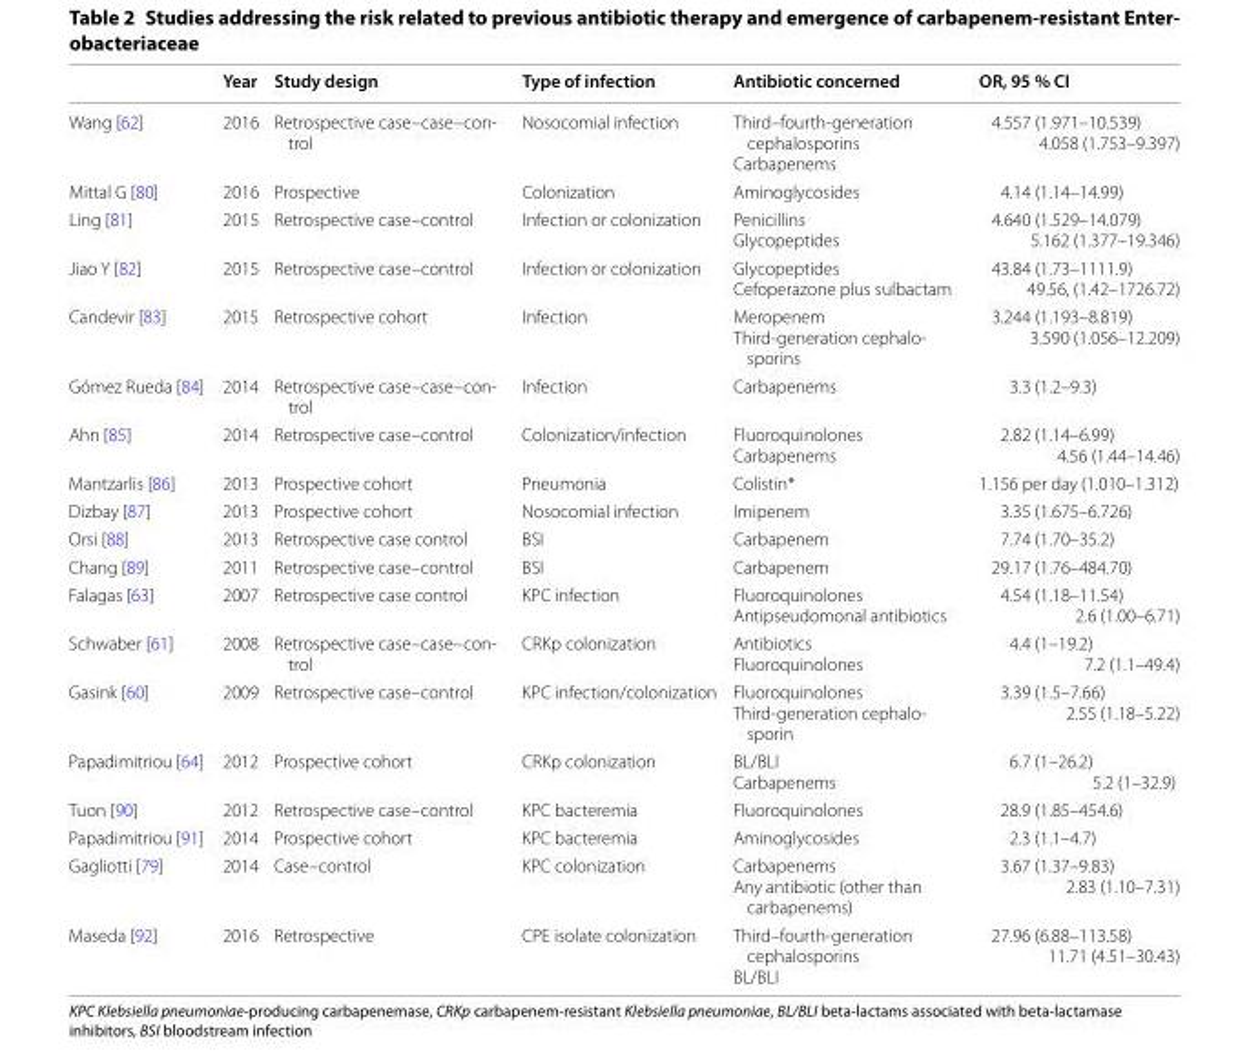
<table><thead><tr><td></td><td>Year</td><td>Study design</td><td>Type of infection</td><td>Antibiotic concerned</td><td>OR, 95 % CI</td></tr></thead><tbody><tr><td>Wang [62]</td><td>2016</td><td>Retrospective case–case–con‑ trol</td><td>Nosocomial infection</td><td>Third–fourth‑generation cephalosporins Carbapenems</td><td>4.557 (1.971–10.539) 4.058 (1.753–9.397)</td></tr><tr><td>Mittal G [80]</td><td>2016</td><td>Prospective</td><td>Colonization</td><td>Aminoglycosides</td><td>4.14 (1.14–14.99)</td></tr><tr><td>Ling [81]</td><td>2015</td><td>Retrospective case–control</td><td>Infection or colonization</td><td>Penicillins Glycopeptides</td><td>4.640 (1.529–14.079) 5.162 (1.377–19.346)</td></tr><tr><td>Jiao Y [82]</td><td>2015</td><td>Retrospective case–control</td><td>Infection or colonization</td><td>Glycopeptides Cefoperazone plus sulbactam</td><td>43.84 (1.73–1111.9) 49.56, (1.42–1726.72)</td></tr><tr><td>Candevir [83]</td><td>2015</td><td>Retrospective cohort</td><td>Infection</td><td>Meropenem Third‑generation cephalo‑ sporins</td><td>3.244 (1.193–8.819) 3.590 (1.056–12.209)</td></tr><tr><td>Gómez Rueda [84]</td><td>2014</td><td>Retrospective case–case–con‑ trol</td><td>Infection</td><td>Carbapenems</td><td>3.3 (1.2–9.3)</td></tr><tr><td>Ahn [85]</td><td>2014</td><td>Retrospective case–control</td><td>Colonization/infection</td><td>Fluoroquinolones Carbapenems</td><td>2.82 (1.14–6.99) 4.56 (1.44–14.46)</td></tr><tr><td>Mantzarlis [86]</td><td>2013</td><td>Prospective cohort</td><td>Pneumonia</td><td>Colistin*</td><td>1.156 per day (1.010–1.312)</td></tr><tr><td>Dizbay [87]</td><td>2013</td><td>Prospective cohort</td><td>Nosocomial infection</td><td>Imipenem</td><td>3.35 (1.675–6.726)</td></tr><tr><td>Orsi [88]</td><td>2013</td><td>Retrospective case control</td><td>BSI</td><td>Carbapenem</td><td>7.74 (1.70–35.2)</td></tr><tr><td>Chang [89]</td><td>2011</td><td>Retrospective case–control</td><td>BSI</td><td>Carbapenem</td><td>29.17 (1.76–484.70)</td></tr><tr><td>Falagas [63]</td><td>2007</td><td>Retrospective case control</td><td>KPC infection</td><td>Fluoroquinolones Antipseudomonal antibiotics</td><td>4.54 (1.18–11.54) 2.6 (1.00–6.71)</td></tr><tr><td>Schwaber [61]</td><td>2008</td><td>Retrospective case–case–con‑ trol</td><td>CRKp colonization</td><td>Antibiotics Fluoroquinolones</td><td>4.4 (1–19.2) 7.2 (1.1–49.4)</td></tr><tr><td>Gasink [60]</td><td>2009</td><td>Retrospective case–control</td><td>KPC infection/colonization</td><td>Fluoroquinolones Third‑generation cephalo‑ sporin</td><td>3.39 (1.5–7.66) 2.55 (1.18–5.22)</td></tr><tr><td>Papadimitriou [64]</td><td>2012</td><td>Prospective cohort</td><td>CRKp colonization</td><td>BL/BLI Carbapenems</td><td>6.7 (1–26.2) 5.2 (1–32.9)</td></tr><tr><td>Tuon [90]</td><td>2012</td><td>Retrospective case–control</td><td>KPC bacteremia</td><td>Fluoroquinolones</td><td>28.9 (1.85–454.6)</td></tr><tr><td>Papadimitriou [91]</td><td>2014</td><td>Prospective cohort</td><td>KPC bacteremia</td><td>Aminoglycosides</td><td>2.3 (1.1–4.7)</td></tr><tr><td>Gagliotti [79]</td><td>2014</td><td>Case–control</td><td>KPC colonization</td><td>Carbapenems Any antibiotic (other than carbapenems)</td><td>3.67 (1.37–9.83) 2.83 (1.10–7.31)</td></tr><tr><td>Maseda [92]</td><td>2016</td><td>Retrospective</td><td>CPE isolate colonization</td><td>Third–fourth‑generation cephalosporins BL/BLI</td><td>27.96 (6.88–113.58) 11.71 (4.51–30.43)</td></tr></tbody></table>